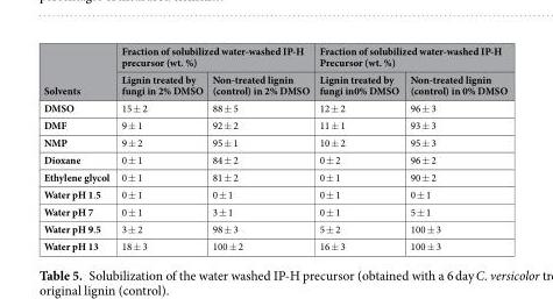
<table><thead><tr><td rowspan="2">Solvents</td><td colspan="2">Fraction of solubilized water-washed IP-H precursor (wt. %)</td><td colspan="2">Fraction of solubilized water-washed IP-H Precursor (wt. %)</td></tr><tr><td>Lignin treated by fungi in 2% DMSO</td><td>Non-treated lignin (control) in 2% DMSO</td><td>Lignin treated by fungi in0% DMSO</td><td>Non-treated lignin (control) in 0% DMSO</td></tr></thead><tbody><tr><td>DMSO</td><td>15 ± 2</td><td>88 ± 5</td><td>12 ± 2</td><td>96 ± 3</td></tr><tr><td>DMF</td><td>9 ± 1</td><td>92 ± 2</td><td>11 ± 1</td><td>93 ± 3</td></tr><tr><td>NMP</td><td>9 ± 2</td><td>95 ± 1</td><td>10 ± 2</td><td>95 ± 3</td></tr><tr><td>Dioxane</td><td>0 ± 1</td><td>84 ± 2</td><td>0 ± 2</td><td>96 ± 2</td></tr><tr><td>Ethylene glycol</td><td>0 ± 1</td><td>81 ± 2</td><td>0 ± 1</td><td>90 ± 2</td></tr><tr><td>Water pH 1.5</td><td>0 ± 1</td><td>0 ± 1</td><td>0 ± 1</td><td>0 ± 1</td></tr><tr><td>Water pH 7</td><td>0 ± 1</td><td>3 ± 1</td><td>0 ± 1</td><td>5 ± 1</td></tr><tr><td>Water pH 9.5</td><td>3 ± 2</td><td>98 ± 3</td><td>5 ± 2</td><td>100 ± 3</td></tr><tr><td>Water pH 13</td><td>18 ± 3</td><td>100 ± 2</td><td>16 ± 3</td><td>100 ± 3</td></tr></tbody></table>